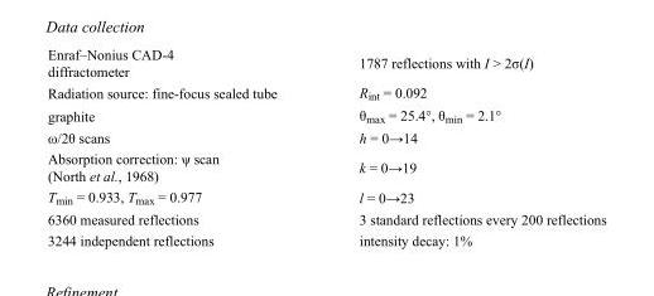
<table><tbody><tr><td>Enraf–Nonius CAD-4 diffractometer</td><td>1787 reflections with I &gt; 2σ(I)</td></tr><tr><td>Radiation source: fine-focus sealed tube</td><td>R<sub>int</sub> = 0.092</td></tr><tr><td>graphite</td><td>θ<sub>max</sub> = 25.4°, θ<sub>min</sub> = 2.1°</td></tr><tr><td>ω/2θ scans</td><td>h = 0→14</td></tr><tr><td>Absorption correction: ψ scan (North et al., 1968)</td><td>k = 0→19</td></tr><tr><td>T<sub>min</sub> = 0.933, T<sub>max</sub> = 0.977</td><td>l = 0→23</td></tr><tr><td>6360 measured reflections</td><td>3 standard reflections every 200 reflections</td></tr><tr><td>3244 independent reflections</td><td>intensity decay: 1%</td></tr></tbody></table>